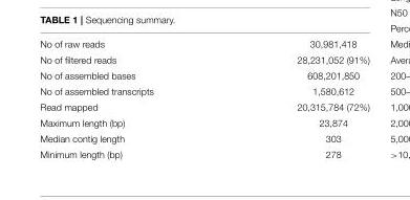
<table><tbody><tr><td>No of raw reads</td><td>30,981,418</td></tr><tr><td>No of filtered reads</td><td>28,231,052 (91%)</td></tr><tr><td>No of assembled bases</td><td>608,201,850</td></tr><tr><td>No of assembled transcripts</td><td>1,580,612</td></tr><tr><td>Read mapped</td><td>20,315,784 (72%)</td></tr><tr><td>Maximum length (bp)</td><td>23,874</td></tr><tr><td>Median contig length</td><td>303</td></tr><tr><td>Minimum length (bp)</td><td>278</td></tr></tbody></table>